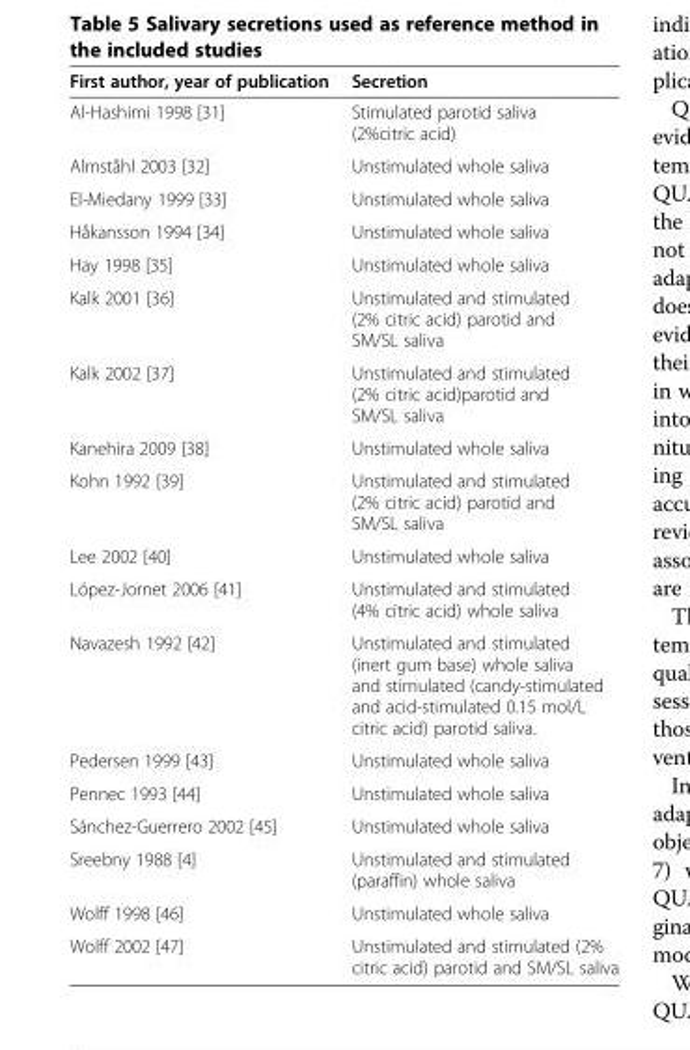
<table><thead><tr><td>First author, year of publication</td><td>Secretion</td></tr></thead><tbody><tr><td>Al-Hashimi 1998 [31]</td><td>Stimulated parotid saliva (2%citric acid)</td></tr><tr><td>Almståhl 2003 [32]</td><td>Unstimulated whole saliva</td></tr><tr><td>El-Miedany 1999 [33]</td><td>Unstimulated whole saliva</td></tr><tr><td>Håkansson 1994 [34]</td><td>Unstimulated whole saliva</td></tr><tr><td>Hay 1998 [35]</td><td>Unstimulated whole saliva</td></tr><tr><td>Kalk 2001 [36]</td><td>Unstimulated and stimulated (2% citric acid) parotid and SM/SL saliva</td></tr><tr><td>Kalk 2002 [37]</td><td>Unstimulated and stimulated (2% citric acid)parotid and SM/SL saliva</td></tr><tr><td>Kanehira 2009 [38]</td><td>Unstimulated whole saliva</td></tr><tr><td>Kohn 1992 [39]</td><td>Unstimulated and stimulated (2% citric acid) parotid and SM/SL saliva</td></tr><tr><td>Lee 2002 [40]</td><td>Unstimulated whole saliva</td></tr><tr><td>López-Jornet 2006 [41]</td><td>Unstimulated and stimulated (4% citric acid) whole saliva</td></tr><tr><td>Navazesh 1992 [42]</td><td>Unstimulated and stimulated (inert gum base) whole saliva and stimulated (candy-stimulated and acid-stimulated 0.15 mol/L citric acid) parotid saliva.</td></tr><tr><td>Pedersen 1999 [43]</td><td>Unstimulated whole saliva</td></tr><tr><td>Pennec 1993 [44]</td><td>Unstimulated whole saliva</td></tr><tr><td>Sánchez-Guerrero 2002 [45]</td><td>Unstimulated whole saliva</td></tr><tr><td>Sreebny 1988 [4]</td><td>Unstimulated and stimulated (paraffin) whole saliva</td></tr><tr><td>Wolff 1998 [46]</td><td>Unstimulated whole saliva</td></tr><tr><td>Wolff 2002 [47]</td><td>Unstimulated and stimulated (2% citric acid) parotid and SM/SL saliva</td></tr></tbody></table>